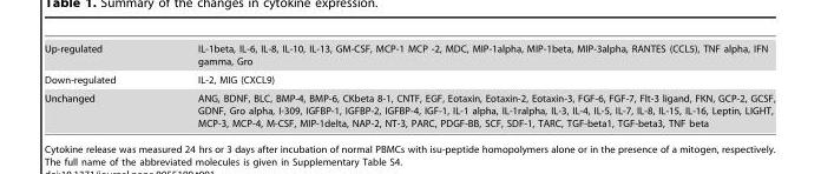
<table><tbody><tr><td>Up-regulated</td><td>IL-1beta, IL-6, IL-8, IL-10, IL-13, GM-CSF, MCP-1 MCP -2, MDC, MIP-1alpha, MIP-1beta, MIP-3alpha, RANTES (CCL5), TNF alpha, IFN gamma, Gro</td></tr><tr><td>Down-regulated</td><td>IL-2, MIG (CXCL9)</td></tr><tr><td>Unchanged</td><td>ANG, BDNF, BLC, BMP-4, BMP-6, CKbeta 8-1, CNTF, EGF, Eotaxin, Eotaxin-2, Eotaxin-3, FGF-6, FGF-7, Flt-3 ligand, FKN, GCP-2, GCSF, GDNF, Gro alpha, I-309, IGFBP-1, IGFBP-2, IGFBP-4, IGF-1, IL-1 alpha, IL-1ralpha, IL-3, IL-4, IL-5, IL-7, IL-8, IL-15, IL-16, Leptin, LIGHT, MCP-3, MCP-4, M-CSF, MIP-1delta, NAP-2, NT-3, PARC, PDGF-BB, SCF, SDF-1, TARC, TGF-beta1, TGF-beta3, TNF beta</td></tr></tbody></table>